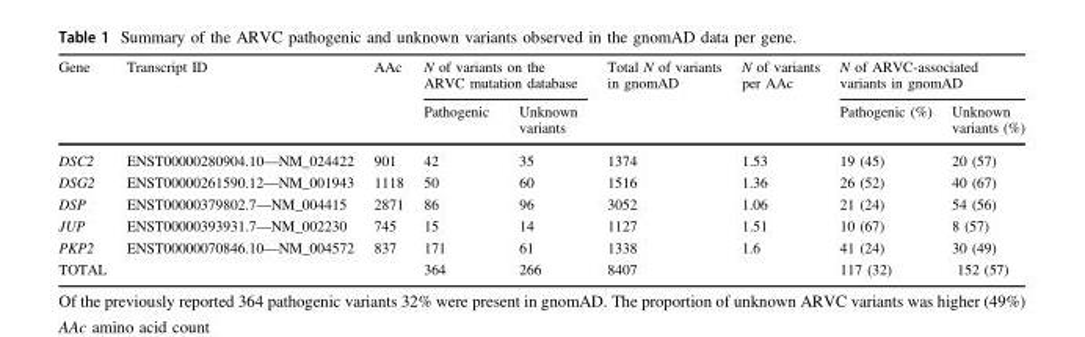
<table><thead><tr><td rowspan="2">Gene</td><td rowspan="2">Transcript ID</td><td rowspan="2">AAc</td><td colspan="2">N of variants on the ARVC mutation database</td><td rowspan="2">Total N of variants in gnomAD</td><td rowspan="2">N of variants per AAc</td><td colspan="2">N of ARVC-associated variants in gnomAD</td></tr><tr><td>Pathogenic</td><td>Unknown variants</td><td>Pathogenic (%)</td><td>Unknown variants (%)</td></tr></thead><tbody><tr><td>DSC2</td><td>ENST00000280904.10—NM_024422</td><td>901</td><td>42</td><td>35</td><td>1374</td><td>1.53</td><td>19 (45)</td><td>20 (57)</td></tr><tr><td>DSG2</td><td>ENST00000261590.12—NM_001943</td><td>1118</td><td>50</td><td>60</td><td>1516</td><td>1.36</td><td>26 (52)</td><td>40 (67)</td></tr><tr><td>DSP</td><td>ENST00000379802.7—NM_004415</td><td>2871</td><td>86</td><td>96</td><td>3052</td><td>1.06</td><td>21 (24)</td><td>54 (56)</td></tr><tr><td>JUP</td><td>ENST00000393931.7—NM_002230</td><td>745</td><td>15</td><td>14</td><td>1127</td><td>1.51</td><td>10 (67)</td><td>8 (57)</td></tr><tr><td>PKP2</td><td>ENST00000070846.10—NM_004572</td><td>837</td><td>171</td><td>61</td><td>1338</td><td>1.6</td><td>41 (24)</td><td>30 (49)</td></tr><tr><td>TOTAL</td><td></td><td></td><td>364</td><td>266</td><td>8407</td><td></td><td>117 (32)</td><td>152 (57)</td></tr></tbody></table>